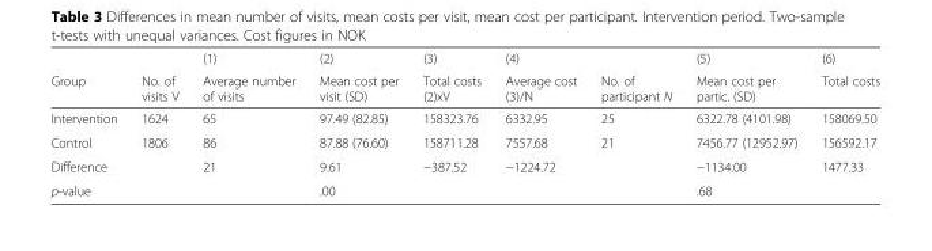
<table><thead><tr><td rowspan="2">Group</td><td rowspan="2">No. of visits V</td><td rowspan="2">(1) Average number of visits</td><td rowspan="2">(2) Mean cost per visit (SD)</td><td rowspan="2">(3) Total costs (2)xV</td><td rowspan="2">(4) Average cost (3)/N</td><td rowspan="2">No. of participant N</td><td rowspan="2">(5) Mean cost per partic. (SD)</td><td rowspan="2">(6) Total costs</td></tr><tr></tr></thead><tbody><tr><td>Intervention</td><td>1624</td><td>65</td><td>97.49 (82.85)</td><td>158323.76</td><td>6332.95</td><td>25</td><td>6322.78 (4101.98)</td><td>158069.50</td></tr><tr><td>Control</td><td>1806</td><td>86</td><td>87.88 (76.60)</td><td>158711.28</td><td>7557.68</td><td>21</td><td>7456.77 (12952.97)</td><td>156592.17</td></tr><tr><td>Difference</td><td></td><td>21</td><td>9.61</td><td>−387.52</td><td>−1224.72</td><td></td><td>−1134.00</td><td>1477.33</td></tr><tr><td>p-value</td><td></td><td></td><td>.00</td><td></td><td></td><td></td><td>.68</td><td></td></tr></tbody></table>